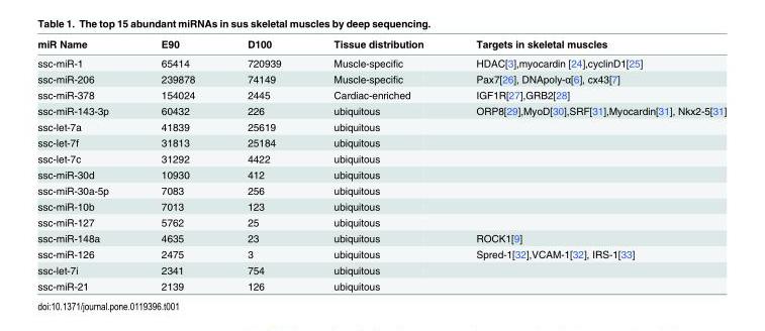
<table><thead><tr><td>miR Name</td><td>E90</td><td>D100</td><td>Tissue distribution</td><td>Targets in skeletal muscles</td></tr></thead><tbody><tr><td>ssc-miR-1</td><td>65414</td><td>720939</td><td>Muscle-specific</td><td>HDAC[3],myocardin [24],cyclinD1[25]</td></tr><tr><td>ssc-miR-206</td><td>239878</td><td>74149</td><td>Muscle-specific</td><td>Pax7[26], DNApoly-α[6], cx43[7]</td></tr><tr><td>ssc-miR-378</td><td>154024</td><td>2445</td><td>Cardiac-enriched</td><td>IGF1R[27],GRB2[28]</td></tr><tr><td>ssc-miR-143-3p</td><td>60432</td><td>226</td><td>ubiquitous</td><td>ORP8[29],MyoD[30],SRF[31],Myocardin[31], Nkx2-5[31]</td></tr><tr><td>ssc-let-7a</td><td>41839</td><td>25619</td><td>ubiquitous</td><td></td></tr><tr><td>ssc-let-7f</td><td>31813</td><td>25184</td><td>ubiquitous</td><td></td></tr><tr><td>ssc-let-7c</td><td>31292</td><td>4422</td><td>ubiquitous</td><td></td></tr><tr><td>ssc-miR-30d</td><td>10930</td><td>412</td><td>ubiquitous</td><td></td></tr><tr><td>ssc-miR-30a-5p</td><td>7083</td><td>256</td><td>ubiquitous</td><td></td></tr><tr><td>ssc-miR-10b</td><td>7013</td><td>123</td><td>ubiquitous</td><td></td></tr><tr><td>ssc-miR-127</td><td>5762</td><td>25</td><td>ubiquitous</td><td></td></tr><tr><td>ssc-miR-148a</td><td>4635</td><td>23</td><td>ubiquitous</td><td>ROCK1[9]</td></tr><tr><td>ssc-miR-126</td><td>2475</td><td>3</td><td>ubiquitous</td><td>Spred-1[32],VCAM-1[32], IRS-1[33]</td></tr><tr><td>ssc-let-7i</td><td>2341</td><td>754</td><td>ubiquitous</td><td></td></tr><tr><td>ssc-miR-21</td><td>2139</td><td>126</td><td>ubiquitous</td><td></td></tr></tbody></table>